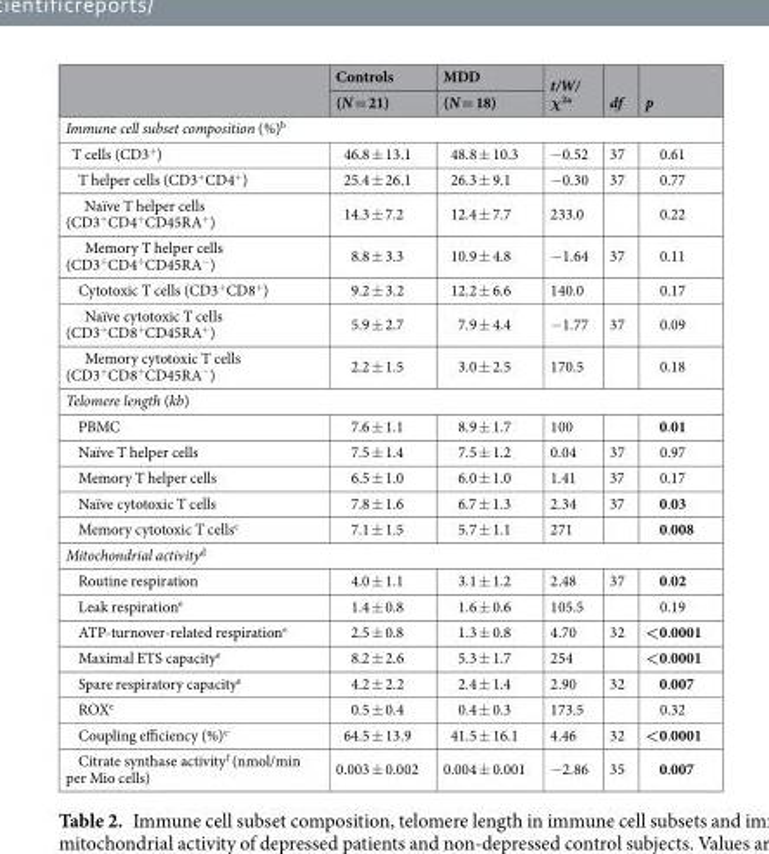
<table><thead><tr><td rowspan="2"></td><td rowspan="2">Controls (N = 21)</td><td rowspan="2">MDD (N = 18)</td><td rowspan="2">t/W/ χ<sup>2a</sup></td><td rowspan="2">df</td><td rowspan="2">p</td></tr><tr></tr></thead><tbody><tr><td colspan="6">Immune cell subset composition (%)<sup>b</sup></td></tr><tr><td>T cells (CD3<sup>+</sup>)</td><td>46.8 ± 13.1</td><td>48.8 ± 10.3</td><td>−0.52</td><td>37</td><td>0.61</td></tr><tr><td>T helper cells (CD3<sup>+</sup>CD4<sup>+</sup>)</td><td>25.4 ± 26.1</td><td>26.3 ± 9.1</td><td>−0.30</td><td>37</td><td>0.77</td></tr><tr><td>Naïve T helper cells (CD3<sup>+</sup>CD4<sup>+</sup>CD45RA<sup>+</sup>)</td><td>14.3 ± 7.2</td><td>12.4 ± 7.7</td><td>233.0</td><td></td><td>0.22</td></tr><tr><td>Memory T helper cells (CD3<sup>+</sup>CD4<sup>+</sup>CD45RA<sup>−</sup>)</td><td>8.8 ± 3.3</td><td>10.9 ± 4.8</td><td>−1.64</td><td>37</td><td>0.11</td></tr><tr><td>Cytotoxic T cells (CD3<sup>+</sup>CD8<sup>+</sup>)</td><td>9.2 ± 3.2</td><td>12.2 ± 6.6</td><td>140.0</td><td></td><td>0.17</td></tr><tr><td>Naïve cytotoxic T cells (CD3<sup>+</sup>CD8<sup>+</sup>CD45RA<sup>+</sup>)</td><td>5.9 ± 2.7</td><td>7.9 ± 4.4</td><td>−1.77</td><td>37</td><td>0.09</td></tr><tr><td>Memory cytotoxic T cells (CD3<sup>+</sup>CD8<sup>+</sup>CD45RA<sup>−</sup>)</td><td>2.2 ± 1.5</td><td>3.0 ± 2.5</td><td>170.5</td><td></td><td>0.18</td></tr><tr><td colspan="6">Telomere length (kb)</td></tr><tr><td>PBMC</td><td>7.6 ± 1.1</td><td>8.9 ± 1.7</td><td>100</td><td></td><td>0.01</td></tr><tr><td>Naïve T helper cells</td><td>7.5 ± 1.4</td><td>7.5 ± 1.2</td><td>0.04</td><td>37</td><td>0.97</td></tr><tr><td>Memory T helper cells</td><td>6.5 ± 1.0</td><td>6.0 ± 1.0</td><td>1.41</td><td>37</td><td>0.17</td></tr><tr><td>Naïve cytotoxic T cells</td><td>7.8 ± 1.6</td><td>6.7 ± 1.3</td><td>2.34</td><td>37</td><td>0.03</td></tr><tr><td>Memory cytotoxic T cells<sup>c</sup></td><td>7.1 ± 1.5</td><td>5.7 ± 1.1</td><td>271</td><td></td><td>0.008</td></tr><tr><td colspan="6">Mitochondrial activity<sup>d</sup></td></tr><tr><td>Routine respiration</td><td>4.0 ± 1.1</td><td>3.1 ± 1.2</td><td>2.48</td><td>37</td><td>0.02</td></tr><tr><td>Leak respiration<sup>e</sup></td><td>1.4 ± 0.8</td><td>1.6 ± 0.6</td><td>105.5</td><td></td><td>0.19</td></tr><tr><td>ATP-turnover-related respiration<sup>e</sup></td><td>2.5 ± 0.8</td><td>1.3 ± 0.8</td><td>4.70</td><td>32</td><td>&lt;0.0001</td></tr><tr><td>Maximal ETS capacity<sup>e</sup></td><td>8.2 ± 2.6</td><td>5.3 ± 1.7</td><td>254</td><td></td><td>&lt;0.0001</td></tr><tr><td>Spare respiratory capacity<sup>e</sup></td><td>4.2 ± 2.2</td><td>2.4 ± 1.4</td><td>2.90</td><td>32</td><td>0.007</td></tr><tr><td>ROX<sup>e</sup></td><td>0.5 ± 0.4</td><td>0.4 ± 0.3</td><td>173.5</td><td></td><td>0.32</td></tr><tr><td>Coupling efficiency (%)<sup>e</sup></td><td>64.5 ± 13.9</td><td>41.5 ± 16.1</td><td>4.46</td><td>32</td><td>&lt;0.0001</td></tr><tr><td>Citrate synthase activity<sup>f</sup> (nmol/min per Mio cells)</td><td>0.003 ± 0.002</td><td>0.004 ± 0.001</td><td>−2.86</td><td>35</td><td>0.007</td></tr></tbody></table>